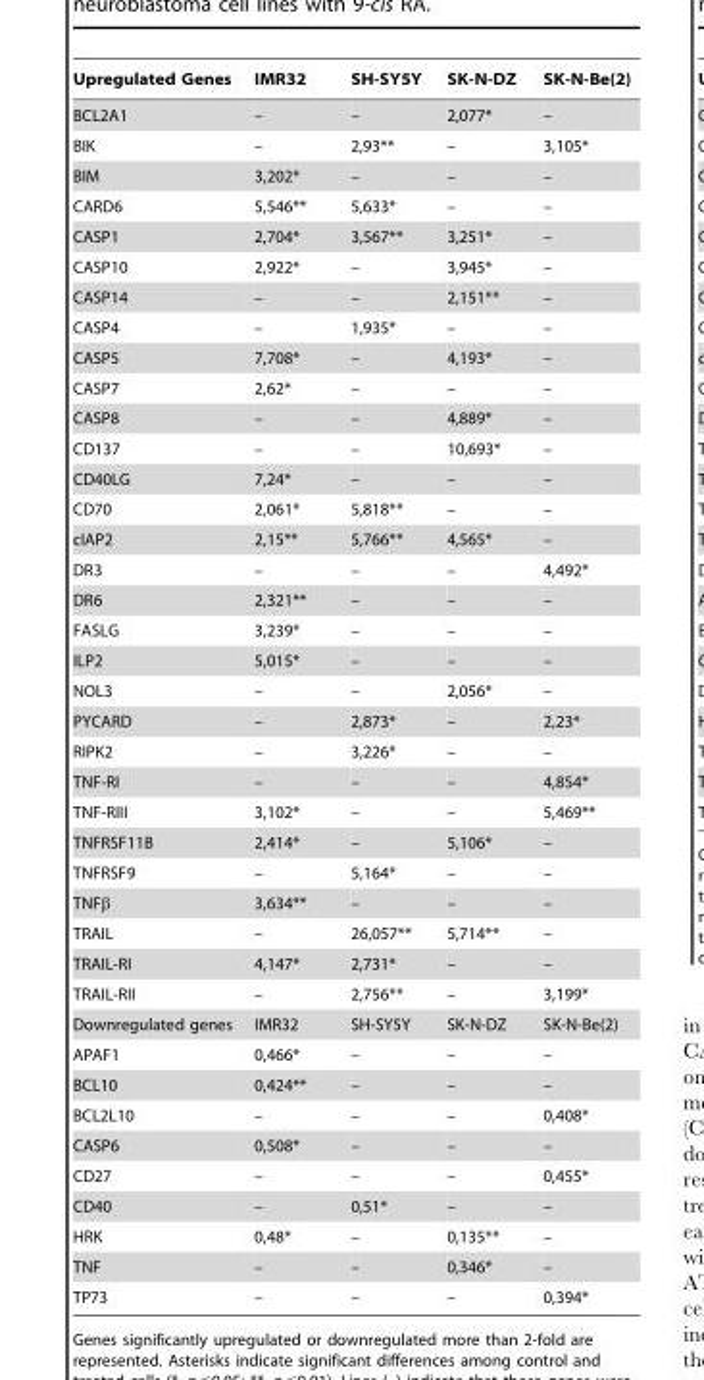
<table><thead><tr><td>Upregulated Genes</td><td>IMR32</td><td>SH-SY5Y</td><td>SK-N-DZ</td><td>SK-N-Be(2)</td></tr></thead><tbody><tr><td>BCL2A1</td><td>–</td><td>–</td><td>2,077*</td><td>–</td></tr><tr><td>BIK</td><td>–</td><td>2,93**</td><td>–</td><td>3,105*</td></tr><tr><td>BIM</td><td>3,202*</td><td>–</td><td>–</td><td>–</td></tr><tr><td>CARD6</td><td>5,546**</td><td>5,633*</td><td>–</td><td>–</td></tr><tr><td>CASP1</td><td>2,704*</td><td>3,567**</td><td>3,251*</td><td>–</td></tr><tr><td>CASP10</td><td>2,922*</td><td>–</td><td>3,945*</td><td>–</td></tr><tr><td>CASP14</td><td>–</td><td>–</td><td>2,151**</td><td>–</td></tr><tr><td>CASP4</td><td>–</td><td>1,935*</td><td>–</td><td>–</td></tr><tr><td>CASP5</td><td>7,708*</td><td>–</td><td>4,193*</td><td>–</td></tr><tr><td>CASP7</td><td>2,62*</td><td>–</td><td>–</td><td>–</td></tr><tr><td>CASP8</td><td>–</td><td>–</td><td>4,889*</td><td>–</td></tr><tr><td>CD137</td><td>–</td><td>–</td><td>10,693*</td><td>–</td></tr><tr><td>CD40LG</td><td>7,24*</td><td>–</td><td>–</td><td>–</td></tr><tr><td>CD70</td><td>2,061*</td><td>5,818**</td><td>–</td><td>–</td></tr><tr><td>cIAP2</td><td>2,15**</td><td>5,766**</td><td>4,565*</td><td>–</td></tr><tr><td>DR3</td><td>–</td><td>–</td><td>–</td><td>4,492*</td></tr><tr><td>DR6</td><td>2,321**</td><td>–</td><td>–</td><td>–</td></tr><tr><td>FASLG</td><td>3,239*</td><td>–</td><td>–</td><td>–</td></tr><tr><td>ILP2</td><td>5,015*</td><td>–</td><td>–</td><td>–</td></tr><tr><td>NOL3</td><td>–</td><td>–</td><td>2,056*</td><td>–</td></tr><tr><td>PYCARD</td><td>–</td><td>2,873*</td><td>–</td><td>2,23*</td></tr><tr><td>RIPK2</td><td>–</td><td>3,226*</td><td>–</td><td>–</td></tr><tr><td>TNF-RI</td><td>–</td><td>–</td><td>–</td><td>4,854*</td></tr><tr><td>TNF-RIII</td><td>3,102*</td><td>–</td><td>–</td><td>5,469**</td></tr><tr><td>TNFRSF11B</td><td>2,414*</td><td>–</td><td>5,106*</td><td>–</td></tr><tr><td>TNFRSF9</td><td>–</td><td>5,164*</td><td>–</td><td>–</td></tr><tr><td>TNFβ</td><td>3,634**</td><td>–</td><td>–</td><td>–</td></tr><tr><td>TRAIL</td><td>–</td><td>26,057**</td><td>5,714**</td><td>–</td></tr><tr><td>TRAIL-RI</td><td>4,147*</td><td>2,731*</td><td>–</td><td>–</td></tr><tr><td>TRAIL-RII</td><td>–</td><td>2,756**</td><td>–</td><td>3,199*</td></tr><tr><td>Downregulated genes</td><td>IMR32</td><td>SH-SY5Y</td><td>SK-N-DZ</td><td>SK-N-Be(2)</td></tr><tr><td>APAF1</td><td>0,466*</td><td>–</td><td>–</td><td>–</td></tr><tr><td>BCL10</td><td>0,424**</td><td>–</td><td>–</td><td>–</td></tr><tr><td>BCL2L10</td><td>–</td><td>–</td><td>–</td><td>0,408*</td></tr><tr><td>CASP6</td><td>0,508*</td><td>–</td><td>–</td><td>–</td></tr><tr><td>CD27</td><td>–</td><td>–</td><td>–</td><td>0,455*</td></tr><tr><td>CD40</td><td>–</td><td>0,51*</td><td>–</td><td>–</td></tr><tr><td>HRK</td><td>0,48*</td><td>–</td><td>0,135**</td><td>–</td></tr><tr><td>TNF</td><td>–</td><td>–</td><td>0,346*</td><td>–</td></tr><tr><td>TP73</td><td>–</td><td>–</td><td>–</td><td>0,394*</td></tr></tbody></table>